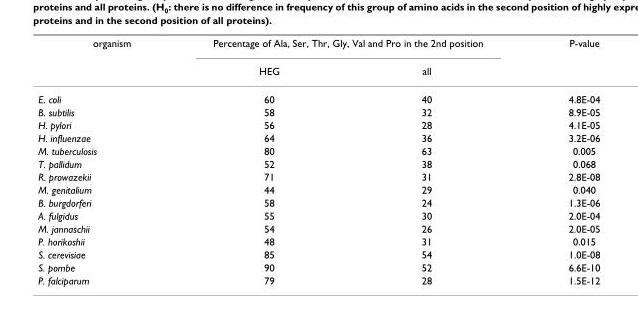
<table><thead><tr><td rowspan="2">organism</td><td colspan="2">Percentage of Ala, Ser, Thr, Gly, Val and Pro in the 2nd position</td><td rowspan="2">P-value</td></tr><tr><td>HEG</td><td>all</td></tr></thead><tbody><tr><td>E. coli</td><td>60</td><td>40</td><td>4.8E-04</td></tr><tr><td>B. subtilis</td><td>58</td><td>32</td><td>8.9E-05</td></tr><tr><td>H. pylori</td><td>56</td><td>28</td><td>4.1E-05</td></tr><tr><td>H. influenzae</td><td>64</td><td>36</td><td>3.2E-06</td></tr><tr><td>M. tuberculosis</td><td>80</td><td>63</td><td>0.005</td></tr><tr><td>T. pallidum</td><td>52</td><td>38</td><td>0.068</td></tr><tr><td>R. prowazekii</td><td>71</td><td>31</td><td>2.8E-08</td></tr><tr><td>M. genitalium</td><td>44</td><td>29</td><td>0.040</td></tr><tr><td>B. burgdorferi</td><td>58</td><td>24</td><td>1.3E-06</td></tr><tr><td>A. fulgidus</td><td>55</td><td>30</td><td>2.0E-04</td></tr><tr><td>M. jannaschii</td><td>54</td><td>26</td><td>2.0E-05</td></tr><tr><td>P. horikoshii</td><td>48</td><td>31</td><td>0.015</td></tr><tr><td>S. cerevisiae</td><td>85</td><td>54</td><td>1.0E-08</td></tr><tr><td>S. pombe</td><td>90</td><td>52</td><td>6.6E-10</td></tr><tr><td>P. falciparum</td><td>79</td><td>28</td><td>1.5E-12</td></tr></tbody></table>